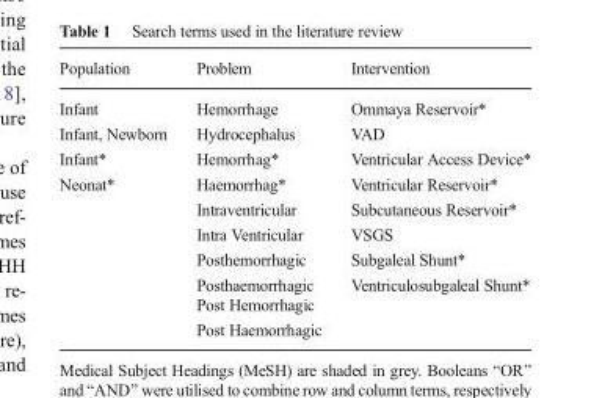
<table><thead><tr><td>Population</td><td>Problem</td><td>Intervention</td></tr></thead><tbody><tr><td>Infant</td><td>Hemorrhage</td><td>Ommaya Reservoir*</td></tr><tr><td>Infant, Newborn</td><td>Hydrocephalus</td><td>VAD</td></tr><tr><td>Infant*</td><td>Hemorrhag*</td><td>Ventricular Access Device*</td></tr><tr><td rowspan="7">Neonat*</td><td>Haemorrhag*</td><td>Ventricular Reservoir*</td></tr><tr><td>Intraventricular</td><td>Subcutaneous Reservoir*</td></tr><tr><td>Intra Ventricular</td><td>VSGS</td></tr><tr><td>Posthemorrhagic</td><td>Subgaleal Shunt*</td></tr><tr><td>Posthaemorrhagic</td><td rowspan="3">Ventriculosubgaleal Shunt*</td></tr><tr><td>Post Hemorrhagic</td></tr><tr><td>Post Haemorrhagic</td></tr></tbody></table>